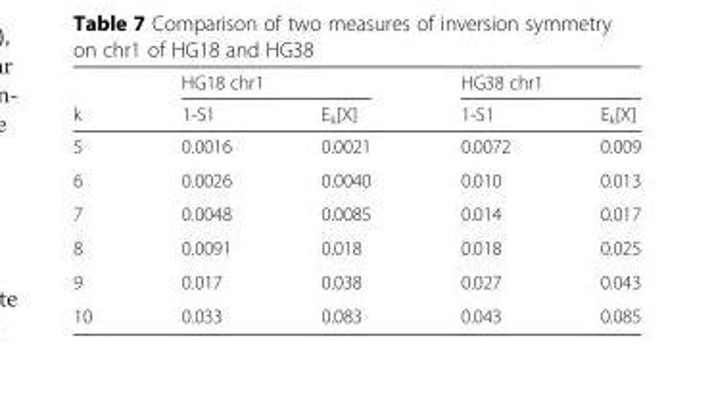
<table><thead><tr><td rowspan="2">k</td><td colspan="2">HG18 chr1</td><td colspan="2">HG38 chr1</td></tr><tr><td>1-S1</td><td>E<sub>k</sub>[X]</td><td>1-S1</td><td>E<sub>k</sub>[X]</td></tr></thead><tbody><tr><td>5</td><td>0.0016</td><td>0.0021</td><td>0.0072</td><td>0.009</td></tr><tr><td>6</td><td>0.0026</td><td>0.0040</td><td>0.010</td><td>0.013</td></tr><tr><td>7</td><td>0.0048</td><td>0.0085</td><td>0.014</td><td>0.017</td></tr><tr><td>8</td><td>0.0091</td><td>0.018</td><td>0.018</td><td>0.025</td></tr><tr><td>9</td><td>0.017</td><td>0.038</td><td>0.027</td><td>0.043</td></tr><tr><td>10</td><td>0.033</td><td>0.083</td><td>0.043</td><td>0.085</td></tr></tbody></table>